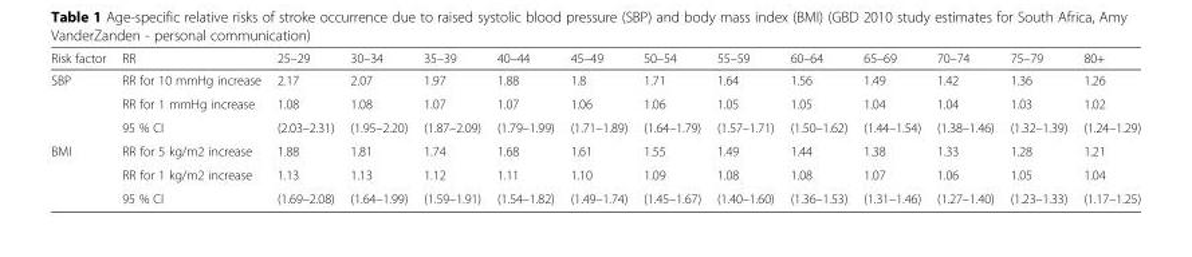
<table><thead><tr><td>Risk factor</td><td>RR</td><td>25–29</td><td>30–34</td><td>35–39</td><td>40–44</td><td>45–49</td><td>50–54</td><td>55–59</td><td>60–64</td><td>65–69</td><td>70–74</td><td>75–79</td><td>80+</td></tr></thead><tbody><tr><td rowspan="3">SBP</td><td>RR for 10 mmHg increase</td><td>2.17</td><td>2.07</td><td>1.97</td><td>1.88</td><td>1.8</td><td>1.71</td><td>1.64</td><td>1.56</td><td>1.49</td><td>1.42</td><td>1.36</td><td>1.26</td></tr><tr><td>RR for 1 mmHg increase</td><td>1.08</td><td>1.08</td><td>1.07</td><td>1.07</td><td>1.06</td><td>1.06</td><td>1.05</td><td>1.05</td><td>1.04</td><td>1.04</td><td>1.03</td><td>1.02</td></tr><tr><td>95 % CI</td><td>(2.03–2.31)</td><td>(1.95–2.20)</td><td>(1.87–2.09)</td><td>(1.79–1.99)</td><td>(1.71–1.89)</td><td>(1.64–1.79)</td><td>(1.57–1.71)</td><td>(1.50–1.62)</td><td>(1.44–1.54)</td><td>(1.38–1.46)</td><td>(1.32–1.39)</td><td>(1.24–1.29)</td></tr><tr><td rowspan="3">BMI</td><td>RR for 5 kg/m2 increase</td><td>1.88</td><td>1.81</td><td>1.74</td><td>1.68</td><td>1.61</td><td>1.55</td><td>1.49</td><td>1.44</td><td>1.38</td><td>1.33</td><td>1.28</td><td>1.21</td></tr><tr><td>RR for 1 kg/m2 increase</td><td>1.13</td><td>1.13</td><td>1.12</td><td>1.11</td><td>1.10</td><td>1.09</td><td>1.08</td><td>1.08</td><td>1.07</td><td>1.06</td><td>1.05</td><td>1.04</td></tr><tr><td>95 % CI</td><td>(1.69–2.08)</td><td>(1.64–1.99)</td><td>(1.59–1.91)</td><td>(1.54–1.82)</td><td>(1.49–1.74)</td><td>(1.45–1.67)</td><td>(1.40–1.60)</td><td>(1.36–1.53)</td><td>(1.31–1.46)</td><td>(1.27–1.40)</td><td>(1.23–1.33)</td><td>(1.17–1.25)</td></tr></tbody></table>